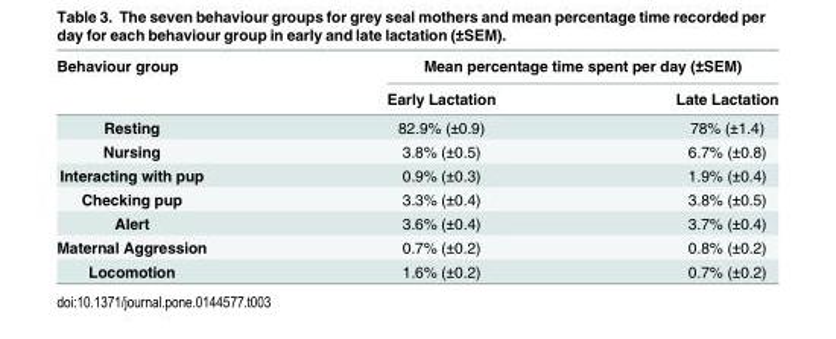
<table><thead><tr><td rowspan="2">Behaviour group</td><td colspan="2">Mean percentage time spent per day (±SEM)</td></tr><tr><td>Early Lactation</td><td>Late Lactation</td></tr></thead><tbody><tr><td>Resting</td><td>82.9% (±0.9)</td><td>78% (±1.4)</td></tr><tr><td>Nursing</td><td>3.8% (±0.5)</td><td>6.7% (±0.8)</td></tr><tr><td>Interacting with pup</td><td>0.9% (±0.3)</td><td>1.9% (±0.4)</td></tr><tr><td>Checking pup</td><td>3.3% (±0.4)</td><td>3.8% (±0.5)</td></tr><tr><td>Alert</td><td>3.6% (±0.4)</td><td>3.7% (±0.4)</td></tr><tr><td>Maternal Aggression</td><td>0.7% (±0.2)</td><td>0.8% (±0.2)</td></tr><tr><td>Locomotion</td><td>1.6% (±0.2)</td><td>0.7% (±0.2)</td></tr></tbody></table>